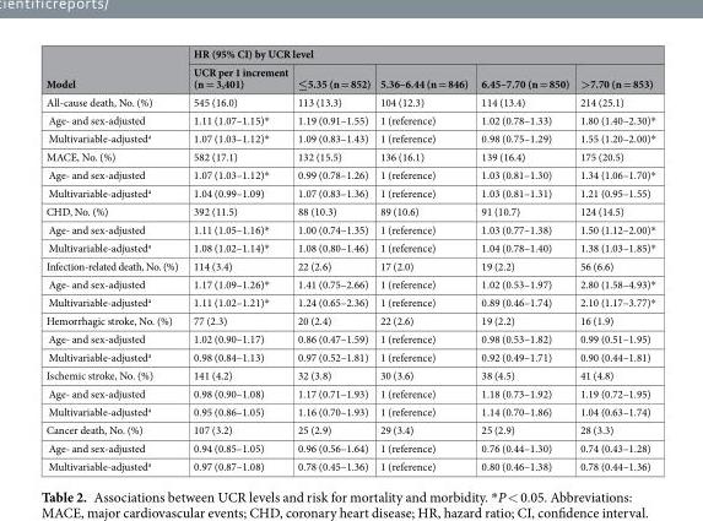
<table><thead><tr><td rowspan="2">Model</td><td colspan="5">HR (95% CI) by UCR level</td></tr><tr><td>UCR per 1 increment (n = 3,401)</td><td>≤5.35 (n = 852)</td><td>5.36–6.44 (n = 846)</td><td>6.45–7.70 (n = 850)</td><td>&gt;7.70 (n = 853)</td></tr></thead><tbody><tr><td>All-cause death, No. (%)</td><td>545 (16.0)</td><td>113 (13.3)</td><td>104 (12.3)</td><td>114 (13.4)</td><td>214 (25.1)</td></tr><tr><td>Age- and sex-adjusted</td><td>1.11 (1.07–1.15)*</td><td>1.19 (0.91–1.55)</td><td>1 (reference)</td><td>1.02 (0.78–1.33)</td><td>1.80 (1.40–2.30)*</td></tr><tr><td>Multivariable-adjusted<sup>a</sup></td><td>1.07 (1.03–1.12)*</td><td>1.09 (0.83–1.43)</td><td>1 (reference)</td><td>0.98 (0.75–1.29)</td><td>1.55 (1.20–2.00)*</td></tr><tr><td>MACE, No. (%)</td><td>582 (17.1)</td><td>132 (15.5)</td><td>136 (16.1)</td><td>139 (16.4)</td><td>175 (20.5)</td></tr><tr><td>Age- and sex-adjusted</td><td>1.07 (1.03–1.12)*</td><td>0.99 (0.78–1.26)</td><td>1 (reference)</td><td>1.03 (0.81–1.30)</td><td>1.34 (1.06–1.70)*</td></tr><tr><td>Multivariable-adjusted<sup>a</sup></td><td>1.04 (0.99–1.09)</td><td>1.07 (0.83–1.36)</td><td>1 (reference)</td><td>1.03 (0.81–1.31)</td><td>1.21 (0.95–1.55)</td></tr><tr><td>CHD, No. (%)</td><td>392 (11.5)</td><td>88 (10.3)</td><td>89 (10.6)</td><td>91 (10.7)</td><td>124 (14.5)</td></tr><tr><td>Age- and sex-adjusted</td><td>1.11 (1.05–1.16)*</td><td>1.00 (0.74–1.35)</td><td>1 (reference)</td><td>1.03 (0.77–1.38)</td><td>1.50 (1.12–2.00)*</td></tr><tr><td>Multivariable-adjusted<sup>a</sup></td><td>1.08 (1.02–1.14)*</td><td>1.08 (0.80–1.46)</td><td>1 (reference)</td><td>1.04 (0.78–1.40)</td><td>1.38 (1.03–1.85)*</td></tr><tr><td>Infection-related death, No. (%)</td><td>114 (3.4)</td><td>22 (2.6)</td><td>17 (2.0)</td><td>19 (2.2)</td><td>56 (6.6)</td></tr><tr><td>Age- and sex-adjusted</td><td>1.17 (1.09–1.26)*</td><td>1.41 (0.75–2.66)</td><td>1 (reference)</td><td>1.02 (0.53–1.97)</td><td>2.80 (1.58–4.93)*</td></tr><tr><td>Multivariable-adjusted<sup>a</sup></td><td>1.11 (1.02–1.21)*</td><td>1.24 (0.65–2.36)</td><td>1 (reference)</td><td>0.89 (0.46–1.74)</td><td>2.10 (1.17–3.77)*</td></tr><tr><td>Hemorrhagic stroke, No. (%)</td><td>77 (2.3)</td><td>20 (2.4)</td><td>22 (2.6)</td><td>19 (2.2)</td><td>16 (1.9)</td></tr><tr><td>Age- and sex-adjusted</td><td>1.02 (0.90–1.17)</td><td>0.86 (0.47–1.59)</td><td>1 (reference)</td><td>0.98 (0.53–1.82)</td><td>0.99 (0.51–1.95)</td></tr><tr><td>Multivariable-adjusted<sup>a</sup></td><td>0.98 (0.84–1.13)</td><td>0.97 (0.52–1.81)</td><td>1 (reference)</td><td>0.92 (0.49–1.71)</td><td>0.90 (0.44–1.81)</td></tr><tr><td>Ischemic stroke, No. (%)</td><td>141 (4.2)</td><td>32 (3.8)</td><td>30 (3.6)</td><td>38 (4.5)</td><td>41 (4.8)</td></tr><tr><td>Age- and sex-adjusted</td><td>0.98 (0.90–1.08)</td><td>1.17 (0.71–1.93)</td><td>1 (reference)</td><td>1.18 (0.73–1.92)</td><td>1.19 (0.72–1.95)</td></tr><tr><td>Multivariable-adjusted<sup>a</sup></td><td>0.95 (0.86–1.05)</td><td>1.16 (0.70–1.93)</td><td>1 (reference)</td><td>1.14 (0.70–1.86)</td><td>1.04 (0.63–1.74)</td></tr><tr><td>Cancer death, No. (%)</td><td>107 (3.2)</td><td>25 (2.9)</td><td>29 (3.4)</td><td>25 (2.9)</td><td>28 (3.3)</td></tr><tr><td>Age- and sex-adjusted</td><td>0.94 (0.85–1.05)</td><td>0.96 (0.56–1.64)</td><td>1 (reference)</td><td>0.76 (0.44–1.30)</td><td>0.74 (0.43–1.28)</td></tr><tr><td>Multivariable-adjusted<sup>a</sup></td><td>0.97 (0.87–1.08)</td><td>0.78 (0.45–1.36)</td><td>1 (reference)</td><td>0.80 (0.46–1.38)</td><td>0.78 (0.44–1.36)</td></tr></tbody></table>